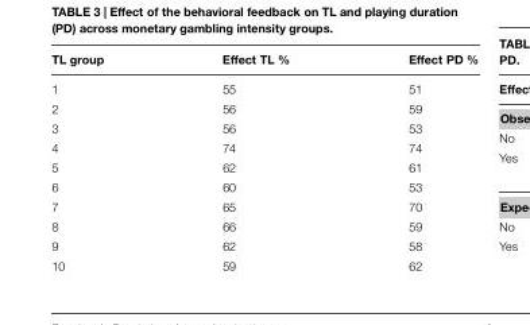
<table><thead><tr><td>TL group</td><td>Effect TL %</td><td>Effect PD %</td></tr></thead><tbody><tr><td>1</td><td>55</td><td>51</td></tr><tr><td>2</td><td>56</td><td>59</td></tr><tr><td>3</td><td>56</td><td>53</td></tr><tr><td>4</td><td>74</td><td>74</td></tr><tr><td>5</td><td>62</td><td>61</td></tr><tr><td>6</td><td>60</td><td>53</td></tr><tr><td>7</td><td>65</td><td>70</td></tr><tr><td>8</td><td>66</td><td>59</td></tr><tr><td>9</td><td>62</td><td>58</td></tr><tr><td>10</td><td>59</td><td>62</td></tr></tbody></table>